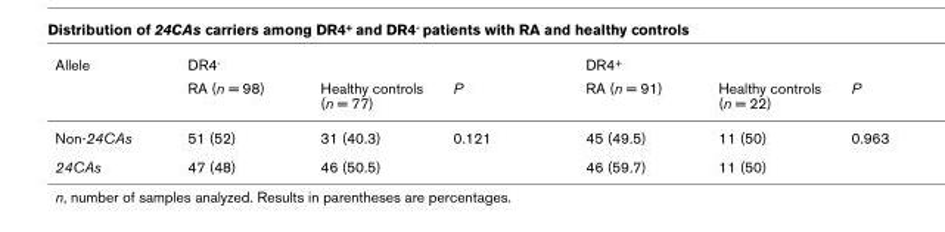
<table><thead><tr><td rowspan="2">Allele</td><td colspan="3">DR4<sup>-</sup></td><td colspan="3">DR4<sup>+</sup></td></tr><tr><td>RA (n = 98)</td><td>Healthy controls (n = 77)</td><td>P</td><td>RA (n = 91)</td><td>Healthy controls (n = 22)</td><td>P</td></tr></thead><tbody><tr><td>Non-24CAs</td><td>51 (52)</td><td>31 (40.3)</td><td>0.121</td><td>45 (49.5)</td><td>11 (50)</td><td>0.963</td></tr><tr><td>24CAs</td><td>47 (48)</td><td>46 (50.5)</td><td></td><td>46 (59.7)</td><td>11 (50)</td><td></td></tr></tbody></table>